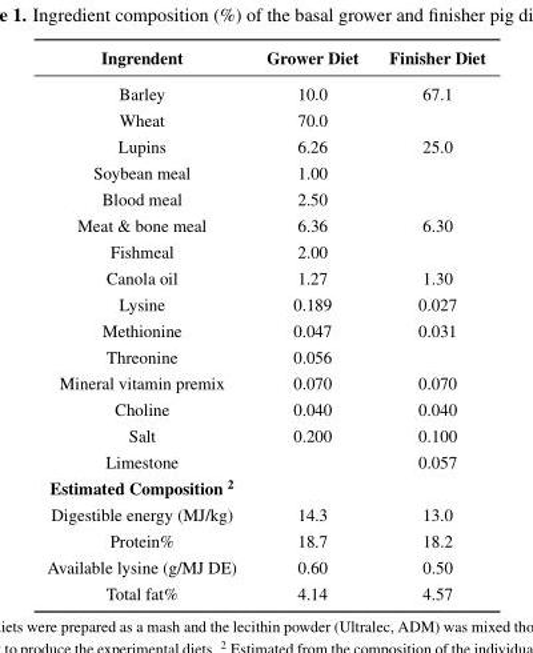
<table><thead><tr><td>Ingrendent</td><td>Grower Diet</td><td>Finisher Diet</td></tr></thead><tbody><tr><td>Barley</td><td>10.0</td><td>67.1</td></tr><tr><td>Wheat</td><td>70.0</td><td></td></tr><tr><td>Lupins</td><td>6.26</td><td>25.0</td></tr><tr><td>Soybean meal</td><td>1.00</td><td></td></tr><tr><td>Blood meal</td><td>2.50</td><td></td></tr><tr><td>Meat &amp; bone meal</td><td>6.36</td><td>6.30</td></tr><tr><td>Fishmeal</td><td>2.00</td><td></td></tr><tr><td>Canola oil</td><td>1.27</td><td>1.30</td></tr><tr><td>Lysine</td><td>0.189</td><td>0.027</td></tr><tr><td>Methionine</td><td>0.047</td><td>0.031</td></tr><tr><td>Threonine</td><td>0.056</td><td></td></tr><tr><td>Mineral vitamin premix</td><td>0.070</td><td>0.070</td></tr><tr><td>Choline</td><td>0.040</td><td>0.040</td></tr><tr><td>Salt</td><td>0.200</td><td>0.100</td></tr><tr><td>Limestone</td><td></td><td>0.057</td></tr><tr><td colspan="3">Estimated Composition <sup>2</sup></td></tr><tr><td>Digestible energy (MJ/kg)</td><td>14.3</td><td>13.0</td></tr><tr><td>Protein%</td><td>18.7</td><td>18.2</td></tr><tr><td>Available lysine (g/MJ DE)</td><td>0.60</td><td>0.50</td></tr><tr><td>Total fat%</td><td>4.14</td><td>4.57</td></tr></tbody></table>